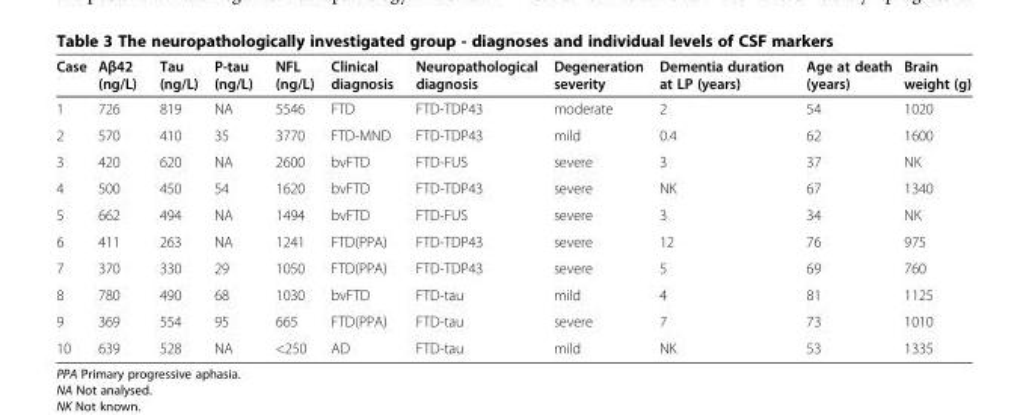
<table><thead><tr><td>Case</td><td>Aβ42 (ng/L)</td><td>Tau (ng/L)</td><td>P-tau (ng/L)</td><td>NFL (ng/L)</td><td>Clinical diagnosis</td><td>Neuropathological diagnosis</td><td>Degeneration severity</td><td>Dementia duration at LP (years)</td><td>Age at death (years)</td><td>Brain weight (g)</td></tr></thead><tbody><tr><td>1</td><td>726</td><td>819</td><td>NA</td><td>5546</td><td>FTD</td><td>FTD-TDP43</td><td>moderate</td><td>2</td><td>54</td><td>1020</td></tr><tr><td>2</td><td>570</td><td>410</td><td>35</td><td>3770</td><td>FTD-MND</td><td>FTD-TDP43</td><td>mild</td><td>0.4</td><td>62</td><td>1600</td></tr><tr><td>3</td><td>420</td><td>620</td><td>NA</td><td>2600</td><td>bvFTD</td><td>FTD-FUS</td><td>severe</td><td>3</td><td>37</td><td>NK</td></tr><tr><td>4</td><td>500</td><td>450</td><td>54</td><td>1620</td><td>bvFTD</td><td>FTD-TDP43</td><td>severe</td><td>NK</td><td>67</td><td>1340</td></tr><tr><td>5</td><td>662</td><td>494</td><td>NA</td><td>1494</td><td>bvFTD</td><td>FTD-FUS</td><td>severe</td><td>3</td><td>34</td><td>NK</td></tr><tr><td>6</td><td>411</td><td>263</td><td>NA</td><td>1241</td><td>FTD(PPA)</td><td>FTD-TDP43</td><td>severe</td><td>12</td><td>76</td><td>975</td></tr><tr><td>7</td><td>370</td><td>330</td><td>29</td><td>1050</td><td>FTD(PPA)</td><td>FTD-TDP43</td><td>severe</td><td>5</td><td>69</td><td>760</td></tr><tr><td>8</td><td>780</td><td>490</td><td>68</td><td>1030</td><td>bvFTD</td><td>FTD-tau</td><td>mild</td><td>4</td><td>81</td><td>1125</td></tr><tr><td>9</td><td>369</td><td>554</td><td>95</td><td>665</td><td>FTD(PPA)</td><td>FTD-tau</td><td>severe</td><td>7</td><td>73</td><td>1010</td></tr><tr><td>10</td><td>639</td><td>528</td><td>NA</td><td>&lt;250</td><td>AD</td><td>FTD-tau</td><td>mild</td><td>NK</td><td>53</td><td>1335</td></tr></tbody></table>